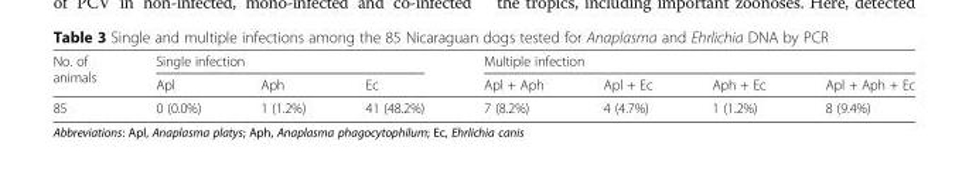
<table><thead><tr><td rowspan="2">No. of animals</td><td colspan="3">Single infection</td><td colspan="4">Multiple infection</td></tr><tr><td>Apl</td><td>Aph</td><td>Ec</td><td>Apl + Aph</td><td>Apl + Ec</td><td>Aph + Ec</td><td>Apl + Aph + Ec</td></tr></thead><tbody><tr><td>85</td><td>0 (0.0%)</td><td>1 (1.2%)</td><td>41 (48.2%)</td><td>7 (8.2%)</td><td>4 (4.7%)</td><td>1 (1.2%)</td><td>8 (9.4%)</td></tr></tbody></table>